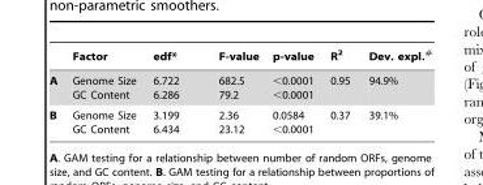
<table><thead><tr><td></td><td>Factor</td><td>edf*</td><td>F-value</td><td>p-value</td><td>R<sup>2</sup></td><td>Dev. expl.#</td></tr></thead><tbody><tr><td>A</td><td>Genome Size GC Content</td><td>6.722 6.286</td><td>682.5 79.2</td><td>&lt;0.0001 &lt;0.0001</td><td>0.95</td><td>94.9%</td></tr><tr><td>B</td><td>Genome Size GC Content</td><td>3.199 6.434</td><td>2.36 23.12</td><td>0.0584 &lt;0.0001</td><td>0.37</td><td>39.1%</td></tr></tbody></table>